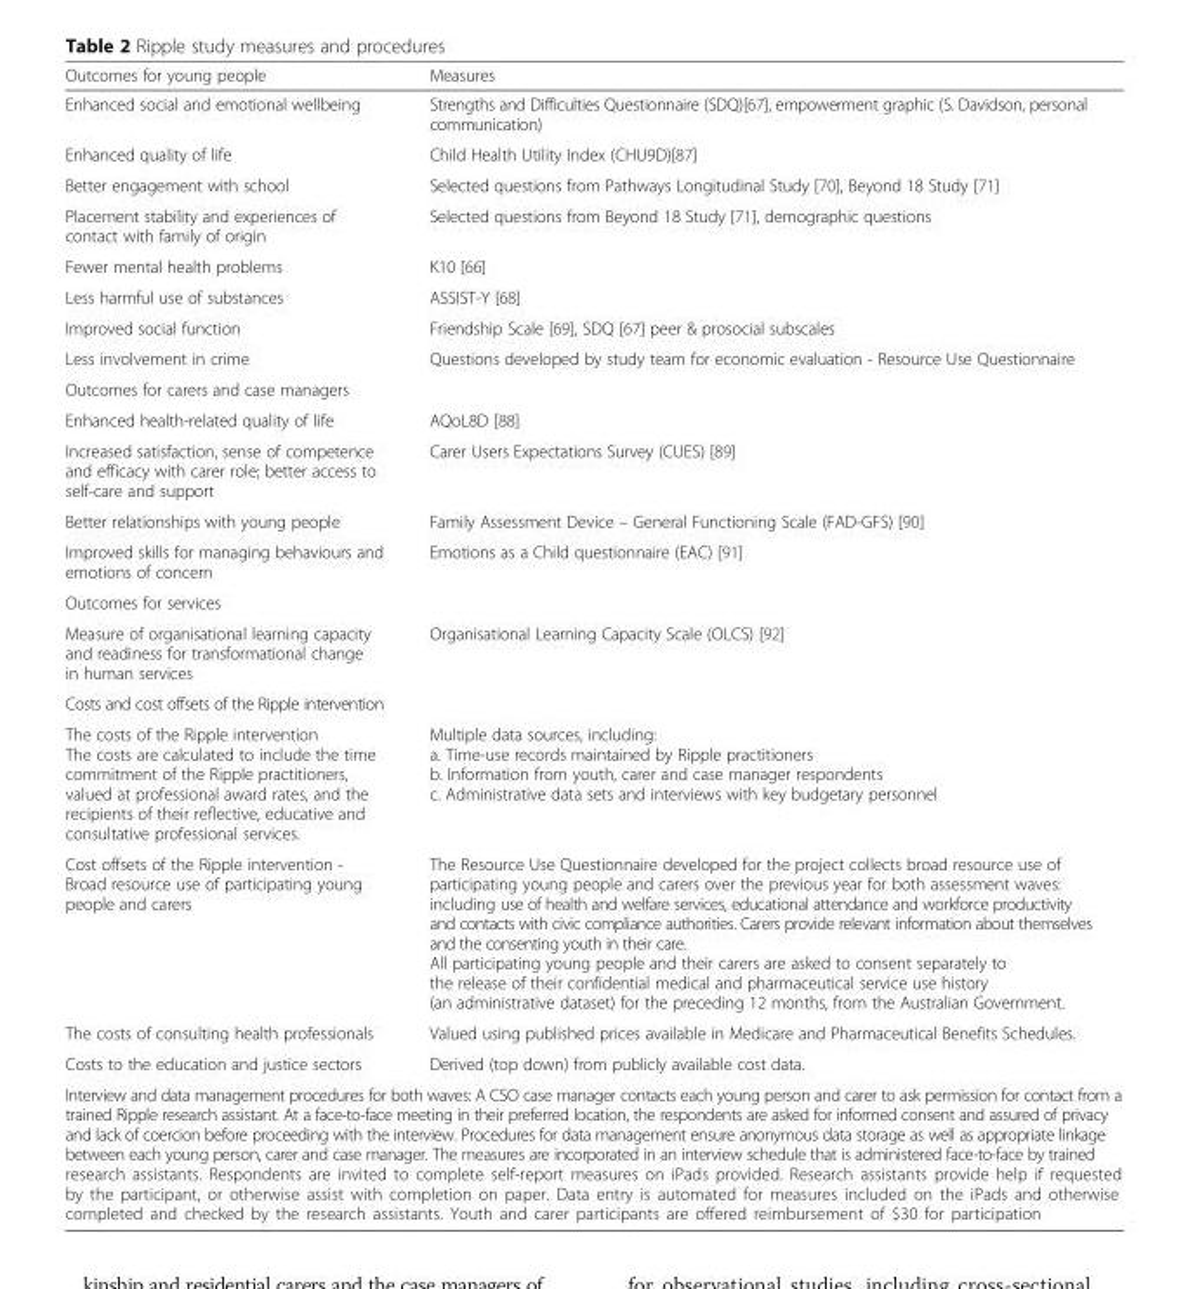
<table><thead><tr><td>Outcomes for young people</td><td>Measures</td></tr></thead><tbody><tr><td>Enhanced social and emotional wellbeing</td><td>Strengths and Difficulties Questionnaire (SDQ)[67], empowerment graphic (S. Davidson, personal communication)</td></tr><tr><td>Enhanced quality of life</td><td>Child Health Utility Index (CHU9D)[87]</td></tr><tr><td>Better engagement with school</td><td>Selected questions from Pathways Longitudinal Study [70], Beyond 18 Study [71]</td></tr><tr><td>Placement stability and experiences of contact with family of origin</td><td>Selected questions from Beyond 18 Study [71], demographic questions</td></tr><tr><td>Fewer mental health problems</td><td>K10 [66]</td></tr><tr><td>Less harmful use of substances</td><td>ASSIST-Y [68]</td></tr><tr><td>Improved social function</td><td>Friendship Scale [69], SDQ [67] peer &amp; prosocial subscales</td></tr><tr><td>Less involvement in crime</td><td>Questions developed by study team for economic evaluation - Resource Use Questionnaire</td></tr><tr><td colspan="2">Outcomes for carers and case managers</td></tr><tr><td>Enhanced health-related quality of life</td><td>AQoL8D [88]</td></tr><tr><td>Increased satisfaction, sense of competence and efficacy with carer role; better access to self-care and support</td><td>Carer Users Expectations Survey (CUES) [89]</td></tr><tr><td>Better relationships with young people</td><td>Family Assessment Device – General Functioning Scale (FAD-GFS) [90]</td></tr><tr><td>Improved skills for managing behaviours and emotions of concern</td><td>Emotions as a Child questionnaire (EAC) [91]</td></tr><tr><td colspan="2">Outcomes for services</td></tr><tr><td>Measure of organisational learning capacity and readiness for transformational change in human services</td><td>Organisational Learning Capacity Scale (OLCS) [92]</td></tr><tr><td colspan="2">Costs and cost offsets of the Ripple intervention</td></tr><tr><td>The costs of the Ripple intervention The costs are calculated to include the time commitment of the Ripple practitioners, valued at professional award rates, and the recipients of their reflective, educative and consultative professional services.</td><td>Multiple data sources, including: a. Time-use records maintained by Ripple practitioners b. Information from youth, carer and case manager respondents c. Administrative data sets and interviews with key budgetary personnel</td></tr><tr><td>Cost offsets of the Ripple intervention - Broad resource use of participating young people and carers</td><td>The Resource Use Questionnaire developed for the project collects broad resource use of participating young people and carers over the previous year for both assessment waves: including use of health and welfare services, educational attendance and workforce productivity and contacts with civic compliance authorities. Carers provide relevant information about themselves and the consenting youth in their care. All participating young people and their carers are asked to consent separately to the release of their confidential medical and pharmaceutical service use history (an administrative dataset) for the preceding 12 months, from the Australian Government.</td></tr><tr><td>The costs of consulting health professionals</td><td>Valued using published prices available in Medicare and Pharmaceutical Benefits Schedules.</td></tr><tr><td>Costs to the education and justice sectors</td><td>Derived (top down) from publicly available cost data.</td></tr><tr><td colspan="2">Interview and data management procedures for both waves: A CSO case manager contacts each young person and carer to ask permission for contact from a trained Ripple research assistant. At a face-to-face meeting in their preferred location, the respondents are asked for informed consent and assured of privacy and lack of coercion before proceeding with the interview. Procedures for data management ensure anonymous data storage as well as appropriate linkage between each young person, carer and case manager. The measures are incorporated in an interview schedule that is administered face-to-face by trained research assistants. Respondents are invited to complete self-report measures on iPads provided. Research assistants provide help if requested by the participant, or otherwise assist with completion on paper. Data entry is automated for measures included on the iPads and otherwise completed and checked by the research assistants. Youth and carer participants are offered reimbursement of $30 for participation</td></tr></tbody></table>